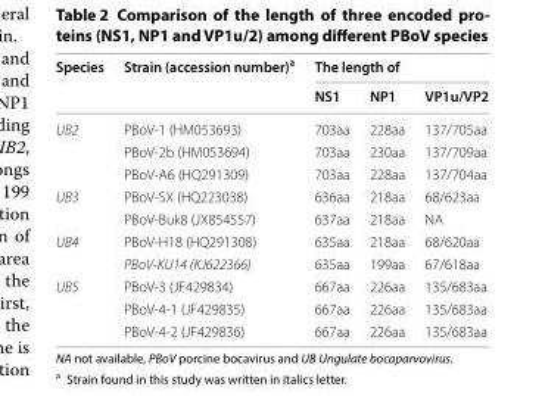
<table><thead><tr><td rowspan="2">Species</td><td rowspan="2">Strain (accession number)<sup>a</sup></td><td colspan="3">The length of</td></tr><tr><td>NS1</td><td>NP1</td><td>VP1u/VP2</td></tr></thead><tbody><tr><td rowspan="3">UB2</td><td>PBoV-1 (HM053693)</td><td>703aa</td><td>228aa</td><td>137/705aa</td></tr><tr><td>PBoV-2b (HM053694)</td><td>703aa</td><td>230aa</td><td>137/709aa</td></tr><tr><td>PBoV-A6 (HQ291309)</td><td>703aa</td><td>228aa</td><td>137/704aa</td></tr><tr><td rowspan="2">UB3</td><td>PBoV-SX (HQ223038)</td><td>636aa</td><td>218aa</td><td>68/623aa</td></tr><tr><td>PBoV-Buk8 (JX854557)</td><td>637aa</td><td>218aa</td><td>NA</td></tr><tr><td rowspan="2">UB4</td><td>PBoV-H18 (HQ291308)</td><td>635aa</td><td>218aa</td><td>68/620aa</td></tr><tr><td>PBoV-KU14 (KJ622366)</td><td>635aa</td><td>199aa</td><td>67/618aa</td></tr><tr><td rowspan="3">UB5</td><td>PBoV-3 (JF429834)</td><td>667aa</td><td>226aa</td><td>135/683aa</td></tr><tr><td>PBoV-4-1 (JF429835)</td><td>667aa</td><td>226aa</td><td>135/683aa</td></tr><tr><td>PBoV-4-2 (JF429836)</td><td>667aa</td><td>226aa</td><td>135/683aa</td></tr></tbody></table>